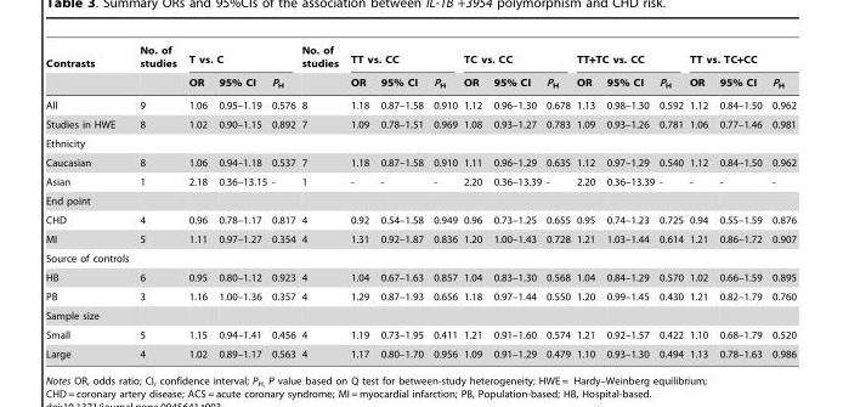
<table><thead><tr><td rowspan="2">Contrasts</td><td rowspan="2">No. of studies</td><td colspan="3">T vs. C</td><td rowspan="2">No. of studies</td><td colspan="3">TT vs. CC</td><td colspan="3">TC vs. CC</td><td colspan="3">TT+TC vs. CC</td><td colspan="3">TT vs. TC+CC</td></tr><tr><td>OR</td><td>95% CI</td><td>P<sub>H</sub></td><td>OR</td><td>95% CI</td><td>P<sub>H</sub></td><td>OR</td><td>95% CI</td><td>P<sub>H</sub></td><td>OR</td><td>95% CI</td><td>P<sub>H</sub></td><td>OR</td><td>95% CI</td><td>P<sub>H</sub></td></tr></thead><tbody><tr><td>All</td><td>9</td><td>1.06</td><td>0.95–1.19</td><td>0.576</td><td>8</td><td>1.18</td><td>0.87–1.58</td><td>0.910</td><td>1.12</td><td>0.96–1.30</td><td>0.678</td><td>1.13</td><td>0.98–1.30</td><td>0.592</td><td>1.12</td><td>0.84–1.50</td><td>0.962</td></tr><tr><td>Studies in HWE</td><td>8</td><td>1.02</td><td>0.90–1.15</td><td>0.892</td><td>7</td><td>1.09</td><td>0.78–1.51</td><td>0.969</td><td>1.08</td><td>0.93–1.27</td><td>0.783</td><td>1.09</td><td>0.93–1.26</td><td>0.781</td><td>1.06</td><td>0.77–1.46</td><td>0.981</td></tr><tr><td colspan="18">Ethnicity</td></tr><tr><td>Caucasian</td><td>8</td><td>1.06</td><td>0.94–1.18</td><td>0.537</td><td>7</td><td>1.18</td><td>0.87–1.58</td><td>0.910</td><td>1.11</td><td>0.96–1.29</td><td>0.635</td><td>1.12</td><td>0.97–1.29</td><td>0.540</td><td>1.12</td><td>0.84–1.50</td><td>0.962</td></tr><tr><td>Asian</td><td>1</td><td>2.18</td><td>0.36–13.15</td><td>-</td><td>1</td><td>-</td><td>-</td><td>-</td><td>2.20</td><td>0.36–13.39</td><td>-</td><td>2.20</td><td>0.36–13.39</td><td>-</td><td>-</td><td>-</td><td>-</td></tr><tr><td colspan="18">End point</td></tr><tr><td>CHD</td><td>4</td><td>0.96</td><td>0.78–1.17</td><td>0.817</td><td>4</td><td>0.92</td><td>0.54–1.58</td><td>0.949</td><td>0.96</td><td>0.73–1.25</td><td>0.655</td><td>0.95</td><td>0.74–1.23</td><td>0.725</td><td>0.94</td><td>0.55–1.59</td><td>0.876</td></tr><tr><td>MI</td><td>5</td><td>1.11</td><td>0.97–1.27</td><td>0.354</td><td>4</td><td>1.31</td><td>0.92–1.87</td><td>0.836</td><td>1.20</td><td>1.00–1.43</td><td>0.728</td><td>1.21</td><td>1.03–1.44</td><td>0.614</td><td>1.21</td><td>0.86–1.72</td><td>0.907</td></tr><tr><td colspan="18">Source of controls</td></tr><tr><td>HB</td><td>6</td><td>0.95</td><td>0.80–1.12</td><td>0.923</td><td>4</td><td>1.04</td><td>0.67–1.63</td><td>0.857</td><td>1.04</td><td>0.83–1.30</td><td>0.568</td><td>1.04</td><td>0.84–1.29</td><td>0.570</td><td>1.02</td><td>0.66–1.59</td><td>0.895</td></tr><tr><td>PB</td><td>3</td><td>1.16</td><td>1.00–1.36</td><td>0.357</td><td>4</td><td>1.29</td><td>0.87–1.93</td><td>0.656</td><td>1.18</td><td>0.97–1.44</td><td>0.550</td><td>1.20</td><td>0.99–1.45</td><td>0.430</td><td>1.21</td><td>0.82–1.79</td><td>0.760</td></tr><tr><td colspan="18">Sample size</td></tr><tr><td>Small</td><td>5</td><td>1.15</td><td>0.94–1.41</td><td>0.456</td><td>4</td><td>1.19</td><td>0.73–1.95</td><td>0.411</td><td>1.21</td><td>0.91–1.60</td><td>0.574</td><td>1.21</td><td>0.92–1.57</td><td>0.422</td><td>1.10</td><td>0.68–1.79</td><td>0.520</td></tr><tr><td>Large</td><td>4</td><td>1.02</td><td>0.89–1.17</td><td>0.563</td><td>4</td><td>1.17</td><td>0.80–1.70</td><td>0.956</td><td>1.09</td><td>0.91–1.29</td><td>0.479</td><td>1.10</td><td>0.93–1.30</td><td>0.494</td><td>1.13</td><td>0.78–1.63</td><td>0.986</td></tr></tbody></table>